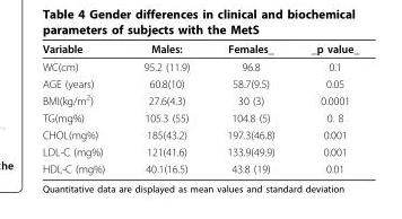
<table><thead><tr><td>Variable</td><td>Males:</td><td>Females_</td><td>_p value_</td></tr></thead><tbody><tr><td>WC(cm)</td><td>95.2 (11.9)</td><td>96.8</td><td>0.1</td></tr><tr><td>AGE (years)</td><td>60.8(10)</td><td>58.7(9.5)</td><td>0.05</td></tr><tr><td>BMI(kg/m<sup>2</sup>)</td><td>27.6(4.3)</td><td>30 (3)</td><td>0.0001</td></tr><tr><td>TG(mg%)</td><td>105.3 (55)</td><td>104.8 (5)</td><td>0. 8</td></tr><tr><td>CHOL(mg%)</td><td>185(43.2)</td><td>197.3(46.8)</td><td>0.001</td></tr><tr><td>LDL-C (mg%)</td><td>121(41.6)</td><td>133.9(49.9)</td><td>0.001</td></tr><tr><td>HDL-C (mg%)</td><td>40.1(16.5)</td><td>43.8 (19)</td><td>0.01</td></tr></tbody></table>